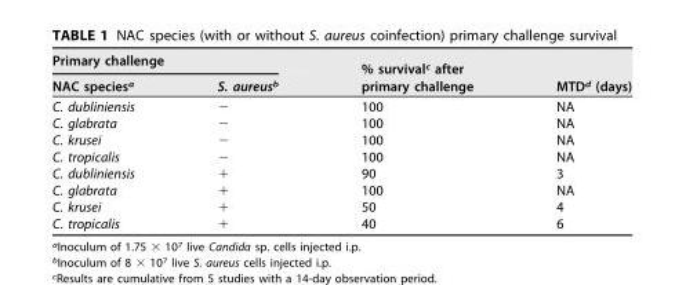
<table><thead><tr><td colspan="2">Primary challenge</td><td rowspan="2">% survival<sup>c</sup> after primary challenge</td><td rowspan="2">MTD<sup>d</sup> (days)</td></tr><tr><td>NAC species<sup>a</sup></td><td>S. aureus<sup>b</sup></td></tr></thead><tbody><tr><td>C. dubliniensis</td><td>−</td><td>100</td><td>NA</td></tr><tr><td>C. glabrata</td><td>−</td><td>100</td><td>NA</td></tr><tr><td>C. krusei</td><td>−</td><td>100</td><td>NA</td></tr><tr><td>C. tropicalis</td><td>−</td><td>100</td><td>NA</td></tr><tr><td>C. dubliniensis</td><td>+</td><td>90</td><td>3</td></tr><tr><td>C. glabrata</td><td>+</td><td>100</td><td>NA</td></tr><tr><td>C. krusei</td><td>+</td><td>50</td><td>4</td></tr><tr><td>C. tropicalis</td><td>+</td><td>40</td><td>6</td></tr></tbody></table>